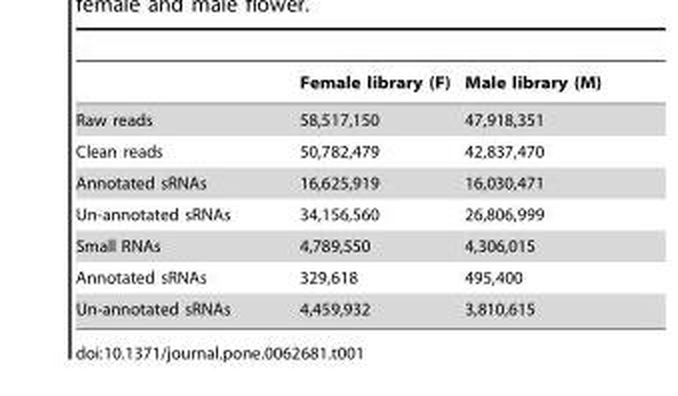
<table><thead><tr><td></td><td>Female library (F)</td><td>Male library (M)</td></tr></thead><tbody><tr><td>Raw reads</td><td>58,517,150</td><td>47,918,351</td></tr><tr><td>Clean reads</td><td>50,782,479</td><td>42,837,470</td></tr><tr><td>Annotated sRNAs</td><td>16,625,919</td><td>16,030,471</td></tr><tr><td>Un-annotated sRNAs</td><td>34,156,560</td><td>26,806,999</td></tr><tr><td>Small RNAs</td><td>4,789,550</td><td>4,306,015</td></tr><tr><td>Annotated sRNAs</td><td>329,618</td><td>495,400</td></tr><tr><td>Un-annotated sRNAs</td><td>4,459,932</td><td>3,810,615</td></tr></tbody></table>